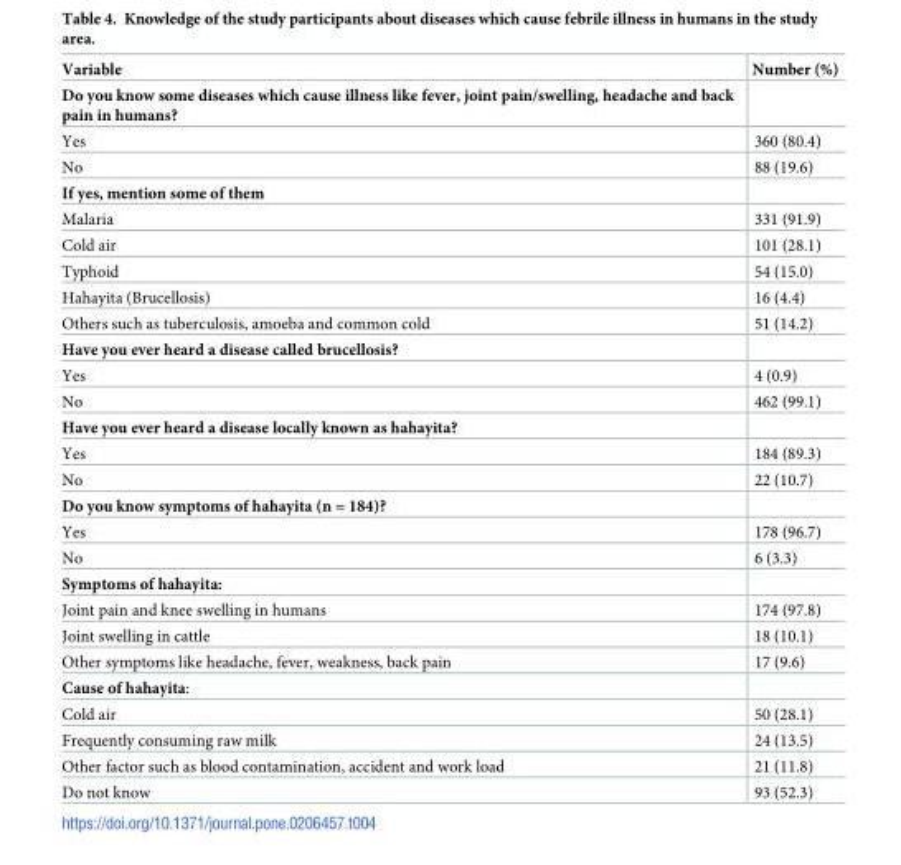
<table><thead><tr><td>Variable</td><td>Number (%)</td></tr></thead><tbody><tr><td colspan="2">Do you know some diseases which cause illness like fever, joint pain/swelling, headache and back pain in humans?</td></tr><tr><td>Yes</td><td>360 (80.4)</td></tr><tr><td>No</td><td>88 (19.6)</td></tr><tr><td colspan="2">If yes, mention some of them</td></tr><tr><td>Malaria</td><td>331 (91.9)</td></tr><tr><td>Cold air</td><td>101 (28.1)</td></tr><tr><td>Typhoid</td><td>54 (15.0)</td></tr><tr><td>Hahayita (Brucellosis)</td><td>16 (4.4)</td></tr><tr><td>Others such as tuberculosis, amoeba and common cold</td><td>51 (14.2)</td></tr><tr><td colspan="2">Have you ever heard a disease called brucellosis?</td></tr><tr><td>Yes</td><td>4 (0.9)</td></tr><tr><td>No</td><td>462 (99.1)</td></tr><tr><td colspan="2">Have you ever heard a disease locally known as hahayita?</td></tr><tr><td>Yes</td><td>184 (89.3)</td></tr><tr><td>No</td><td>22 (10.7)</td></tr><tr><td colspan="2">Do you know symptoms of hahayita (n = 184)?</td></tr><tr><td>Yes</td><td>178 (96.7)</td></tr><tr><td>No</td><td>6 (3.3)</td></tr><tr><td colspan="2">Symptoms of hahayita:</td></tr><tr><td>Joint pain and knee swelling in humans</td><td>174 (97.8)</td></tr><tr><td>Joint swelling in cattle</td><td>18 (10.1)</td></tr><tr><td>Other symptoms like headache, fever, weakness, back pain</td><td>17 (9.6)</td></tr><tr><td colspan="2">Cause of hahayita:</td></tr><tr><td>Cold air</td><td>50 (28.1)</td></tr><tr><td>Frequently consuming raw milk</td><td>24 (13.5)</td></tr><tr><td>Other factor such as blood contamination, accident and work load</td><td>21 (11.8)</td></tr><tr><td>Do not know</td><td>93 (52.3)</td></tr></tbody></table>